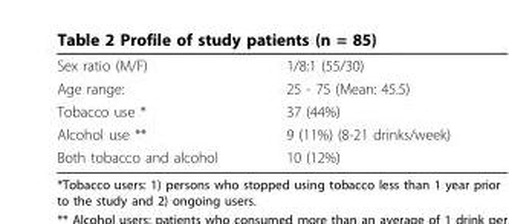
<table><tbody><tr><td>Sex ratio (M/F)</td><td>1/8:1 (55/30)</td></tr><tr><td>Age range:</td><td>25 - 75 (Mean: 45.5)</td></tr><tr><td>Tobacco use *</td><td>37 (44%)</td></tr><tr><td>Alcohol use **</td><td>9 (11%) (8-21 drinks/week)</td></tr><tr><td>Both tobacco and alcohol</td><td>10 (12%)</td></tr></tbody></table>